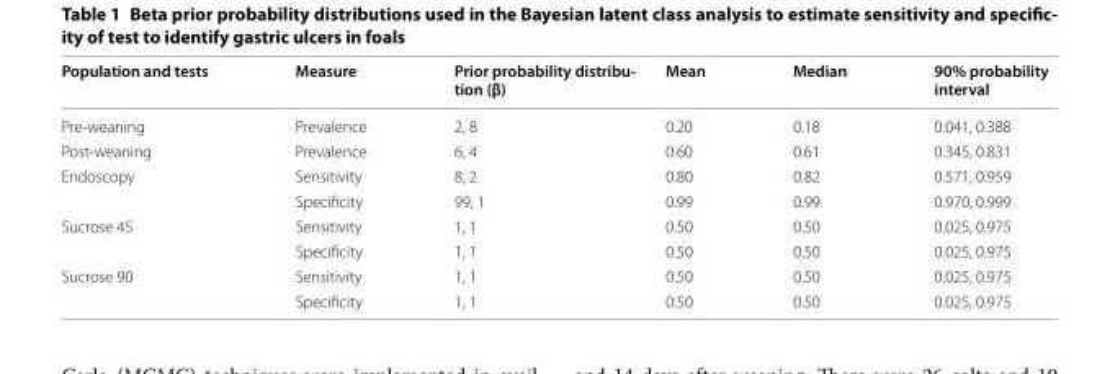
<table><thead><tr><td>Population and tests</td><td>Measure</td><td>Prior probability distribu‑ tion (β)</td><td>Mean</td><td>Median</td><td>90% probability interval</td></tr></thead><tbody><tr><td>Pre‑weaning</td><td>Prevalence</td><td>2, 8</td><td>0.20</td><td>0.18</td><td>0.041, 0.388</td></tr><tr><td>Post‑weaning</td><td>Prevalence</td><td>6, 4</td><td>0.60</td><td>0.61</td><td>0.345, 0.831</td></tr><tr><td rowspan="2">Endoscopy</td><td>Sensitivity</td><td>8, 2</td><td>0.80</td><td>0.82</td><td>0.571, 0.959</td></tr><tr><td>Specificity</td><td>99, 1</td><td>0.99</td><td>0.99</td><td>0.970, 0.999</td></tr><tr><td rowspan="2">Sucrose 45</td><td>Sensitivity</td><td>1, 1</td><td>0.50</td><td>0.50</td><td>0.025, 0.975</td></tr><tr><td>Specificity</td><td>1, 1</td><td>0.50</td><td>0.50</td><td>0.025, 0.975</td></tr><tr><td rowspan="2">Sucrose 90</td><td>Sensitivity</td><td>1, 1</td><td>0.50</td><td>0.50</td><td>0.025, 0.975</td></tr><tr><td>Specificity</td><td>1, 1</td><td>0.50</td><td>0.50</td><td>0.025, 0.975</td></tr></tbody></table>